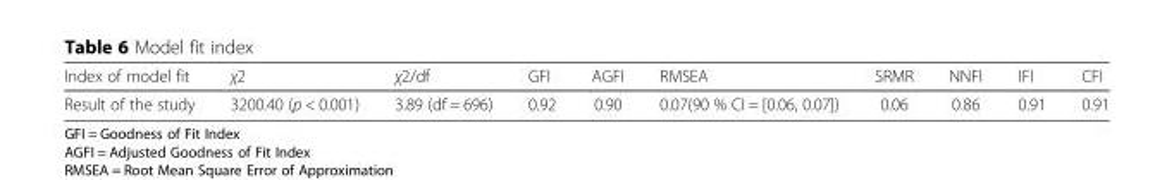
<table><thead><tr><td>Index of model fit</td><td>χ2</td><td>χ2/df</td><td>GFI</td><td>AGFI</td><td>RMSEA</td><td>SRMR</td><td>NNFI</td><td>IFI</td><td>CFI</td></tr></thead><tbody><tr><td>Result of the study</td><td>3200.40 (p &lt; 0.001)</td><td>3.89 (df = 696)</td><td>0.92</td><td>0.90</td><td>0.07(90 % CI = [0.06, 0.07])</td><td>0.06</td><td>0.86</td><td>0.91</td><td>0.91</td></tr></tbody></table>